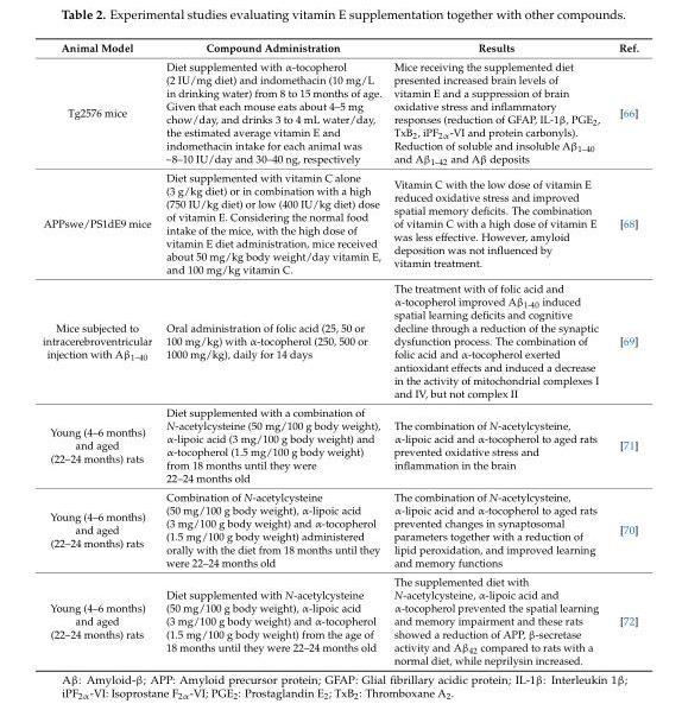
<table><thead><tr><td>Animal Model</td><td>Compound Administration</td><td>Results</td><td>Ref.</td></tr></thead><tbody><tr><td>Tg2576 mice</td><td>Diet supplemented with α-tocopherol (2 IU/mg diet) and indomethacin (10 mg/L in drinking water) from 8 to 15 months of age. Given that each mouse eats about 4–5 mg chow/day, and drinks 3 to 4 mL water/day, the estimated average vitamin E and indomethacin intake for each animal was ~8–10 IU/day and 30–40 ng, respectively</td><td>Mice receiving the supplemented diet presented increased brain levels of vitamin E and a suppression of brain oxidative stress and inflammatory responses (reduction of GFAP, IL-1β, PGE<sub>2</sub>, TxB<sub>2</sub>, iPF<sub>2α</sub>-VI and protein carbonyls). Reduction of soluble and insoluble Aβ<sub>1–40</sub> and Aβ<sub>1–42</sub> and Aβ deposits</td><td>[66]</td></tr><tr><td>APPswe/PS1dE9 mice</td><td>Diet supplemented with vitamin C alone (3 g/kg diet) or in combination with a high (750 IU/kg diet) or low (400 IU/kg diet) dose of vitamin E. Considering the normal food intake of the mice, with the high dose of vitamin E diet administration, mice received about 50 mg/kg body weight/day vitamin E, and 100 mg/kg vitamin C.</td><td>Vitamin C with the low dose of vitamin E reduced oxidative stress and improved spatial memory deficits. The combination of vitamin C with a high dose of vitamin E was less effective. However, amyloid deposition was not influenced by vitamin treatment.</td><td>[68]</td></tr><tr><td>Mice subjected to intracerebroventricular injection with Aβ<sub>1–40</sub></td><td>Oral administration of folic acid (25, 50 or 100 mg/kg) with α-tocopherol (250, 500 or 1000 mg/kg), daily for 14 days</td><td>The treatment with of folic acid and α-tocopherol improved Aβ<sub>1-40</sub> induced spatial learning deficits and cognitive decline through a reduction of the synaptic dysfunction process. The combination of folic acid and α-tocopherol exerted antioxidant effects and induced a decrease in the activity of mitochondrial complexes I and IV, but not complex II</td><td>[69]</td></tr><tr><td>Young (4–6 months) and aged (22–24 months) rats</td><td>Diet supplemented with a combination of N-acetylcysteine (50 mg/100 g body weight), α-lipoic acid (3 mg/100 g body weight) and α-tocopherol (1.5 mg/100 g body weight) from 18 months until they were 22–24 months old</td><td>The combination of N-acetylcysteine, α-lipoic acid and α-tocopherol to aged rats prevented oxidative stress and inflammation in the brain</td><td>[71]</td></tr><tr><td>Young (4–6 months) and aged (22–24 months) rats</td><td>Combination of N-acetylcysteine (50 mg/100 g body weight), α-lipoic acid (3 mg/100 g body weight) and α-tocopherol (1.5 mg/100 g body weight) administered orally with the diet from 18 months until they were 22–24 months old</td><td>The combination of N-acetylcysteine, α-lipoic acid and α-tocopherol to aged rats prevented changes in synaptosomal parameters together with a reduction of lipid peroxidation, and improved learning and memory functions</td><td>[70]</td></tr><tr><td>Young (4–6 months) and aged (22–24 months) rats</td><td>Diet supplemented with N-acetylcysteine (50 mg/100 g body weight), α-lipoic acid (3 mg/100 g body weight) and α-tocopherol (1.5 mg/100 g body weight) from the age of 18 months until they were 22–24 months old</td><td>The supplemented diet with N-acetylcysteine, α-lipoic acid and α-tocopherol prevented the spatial learning and memory impairment and these rats showed a reduction of APP, β-secretase activity and Aβ<sub>42</sub> compared to rats with a normal diet, while neprilysin increased.</td><td>[72]</td></tr></tbody></table>